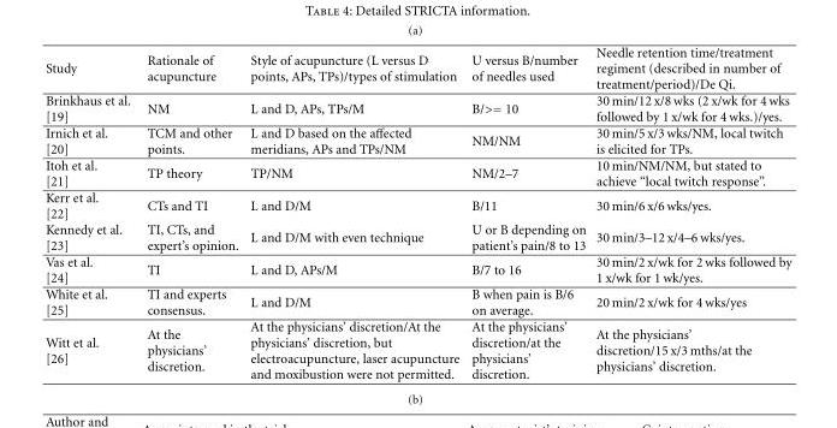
<table><thead><tr><td>Study</td><td>Rationale of acupuncture</td><td>Style of acupuncture (L versus D points, APs, TPs)/types of stimulation</td><td>U versus B/number of needles used</td><td>Needle retention time/treatment regiment (described in number of treatment/period)/De Qi.</td></tr></thead><tbody><tr><td>Brinkhaus et al. [19]</td><td>NM</td><td>L and D, APs, TPs/M</td><td>B/&gt;= 10</td><td>30 min/12 x/8 wks (2 x/wk for 4 wks followed by 1 x/wk for 4 wks.)/yes.</td></tr><tr><td>Irnich et al. [20]</td><td>TCM and other points.</td><td>L and D based on the affected meridians, APs and TPs/NM</td><td>NM/NM</td><td>30 min/5 x/3 wks/NM, local twitch is elicited for TPs.</td></tr><tr><td>Itoh et al. [21]</td><td>TP theory</td><td>TP/NM</td><td>NM/2–7</td><td>10 min/NM/NM, but stated to achieve “local twitch response”.</td></tr><tr><td>Kerr et al. [22]</td><td>CTs and TI</td><td>L and D/M</td><td>B/11</td><td>30 min/6 x/6 wks/yes.</td></tr><tr><td>Kennedy et al. [23]</td><td>TI, CTs, and expert’s opinion.</td><td>L and D/M with even technique</td><td>U or B depending on patient’s pain/8 to 13</td><td>30 min/3–12 x/4–6 wks/yes.</td></tr><tr><td>Vas et al. [24]</td><td>TI</td><td>L and D, APs/M</td><td>B/7 to 16</td><td>30 min/2 x/wk for 2 wks followed by 1 x/wk for 1 wk/yes.</td></tr><tr><td>White et al. [25]</td><td>TI and experts consensus.</td><td>L and D/M</td><td>B when pain is B/6 on average.</td><td>20 min/2 x/wk for 4 wks/yes</td></tr><tr><td>Witt et al. [26]</td><td>At the physicians’ discretion.</td><td>At the physicians’ discretion/At the physicians’ discretion, but electroacupuncture, laser acupuncture and moxibustion were not permitted.</td><td>At the physicians’ discretion/at the physicians’ discretion.</td><td>At the physicians’ discretion/15 x/3 mths/at the physicians’ discretion.</td></tr></tbody></table>